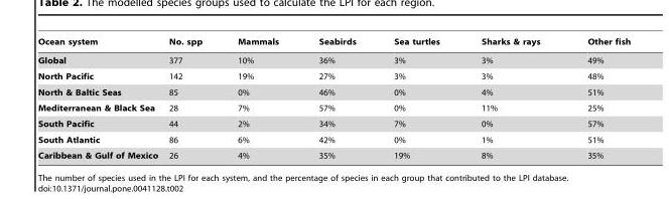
<table><thead><tr><td>Ocean system</td><td>No. spp</td><td>Mammals</td><td>Seabirds</td><td>Sea turtles</td><td>Sharks &amp; rays</td><td>Other fish</td></tr></thead><tbody><tr><td>Global</td><td>377</td><td>10%</td><td>36%</td><td>3%</td><td>3%</td><td>49%</td></tr><tr><td>North Pacific</td><td>142</td><td>19%</td><td>27%</td><td>3%</td><td>3%</td><td>48%</td></tr><tr><td>North &amp; Baltic Seas</td><td>85</td><td>0%</td><td>46%</td><td>0%</td><td>4%</td><td>51%</td></tr><tr><td>Mediterranean &amp; Black Sea</td><td>28</td><td>7%</td><td>57%</td><td>0%</td><td>11%</td><td>25%</td></tr><tr><td>South Pacific</td><td>44</td><td>2%</td><td>34%</td><td>7%</td><td>0%</td><td>57%</td></tr><tr><td>South Atlantic</td><td>86</td><td>6%</td><td>42%</td><td>0%</td><td>1%</td><td>51%</td></tr><tr><td>Caribbean &amp; Gulf of Mexico</td><td>26</td><td>4%</td><td>35%</td><td>19%</td><td>8%</td><td>35%</td></tr></tbody></table>